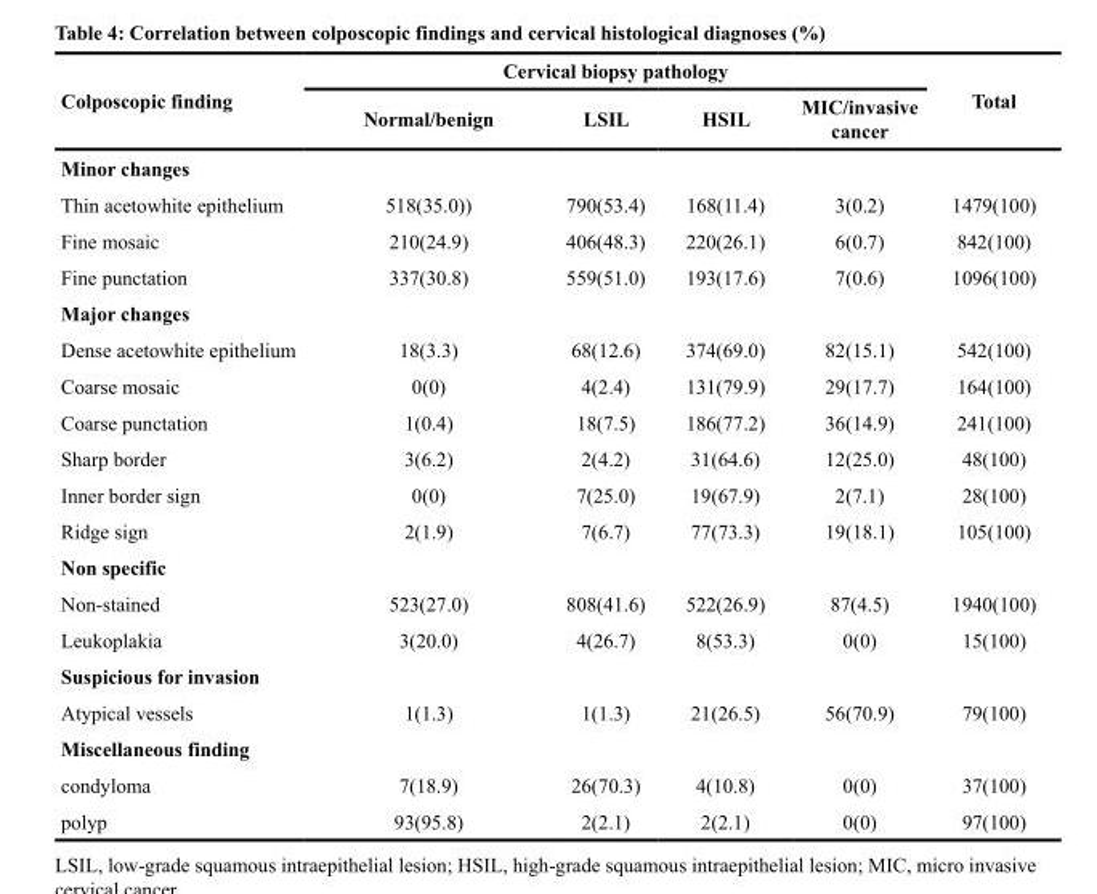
<table><thead><tr><td rowspan="2">Colposcopic finding</td><td colspan="4">Cervical biopsy pathology</td><td rowspan="2">Total</td></tr><tr><td>Normal/benign</td><td>LSIL</td><td>HSIL</td><td>MIC/invasive cancer</td></tr></thead><tbody><tr><td colspan="6">Minor changes</td></tr><tr><td>Thin acetowhite epithelium</td><td>518(35.0))</td><td>790(53.4)</td><td>168(11.4)</td><td>3(0.2)</td><td>1479(100)</td></tr><tr><td>Fine mosaic</td><td>210(24.9)</td><td>406(48.3)</td><td>220(26.1)</td><td>6(0.7)</td><td>842(100)</td></tr><tr><td>Fine punctation</td><td>337(30.8)</td><td>559(51.0)</td><td>193(17.6)</td><td>7(0.6)</td><td>1096(100)</td></tr><tr><td colspan="6">Major changes</td></tr><tr><td>Dense acetowhite epithelium</td><td>18(3.3)</td><td>68(12.6)</td><td>374(69.0)</td><td>82(15.1)</td><td>542(100)</td></tr><tr><td>Coarse mosaic</td><td>0(0)</td><td>4(2.4)</td><td>131(79.9)</td><td>29(17.7)</td><td>164(100)</td></tr><tr><td>Coarse punctation</td><td>1(0.4)</td><td>18(7.5)</td><td>186(77.2)</td><td>36(14.9)</td><td>241(100)</td></tr><tr><td>Sharp border</td><td>3(6.2)</td><td>2(4.2)</td><td>31(64.6)</td><td>12(25.0)</td><td>48(100)</td></tr><tr><td>Inner border sign</td><td>0(0)</td><td>7(25.0)</td><td>19(67.9)</td><td>2(7.1)</td><td>28(100)</td></tr><tr><td>Ridge sign</td><td>2(1.9)</td><td>7(6.7)</td><td>77(73.3)</td><td>19(18.1)</td><td>105(100)</td></tr><tr><td colspan="6">Non specific</td></tr><tr><td>Non-stained</td><td>523(27.0)</td><td>808(41.6)</td><td>522(26.9)</td><td>87(4.5)</td><td>1940(100)</td></tr><tr><td>Leukoplakia</td><td>3(20.0)</td><td>4(26.7)</td><td>8(53.3)</td><td>0(0)</td><td>15(100)</td></tr><tr><td colspan="6">Suspicious for invasion</td></tr><tr><td>Atypical vessels</td><td>1(1.3)</td><td>1(1.3)</td><td>21(26.5)</td><td>56(70.9)</td><td>79(100)</td></tr><tr><td colspan="6">Miscellaneous finding</td></tr><tr><td>condyloma</td><td>7(18.9)</td><td>26(70.3)</td><td>4(10.8)</td><td>0(0)</td><td>37(100)</td></tr><tr><td>polyp</td><td>93(95.8)</td><td>2(2.1)</td><td>2(2.1)</td><td>0(0)</td><td>97(100)</td></tr></tbody></table>